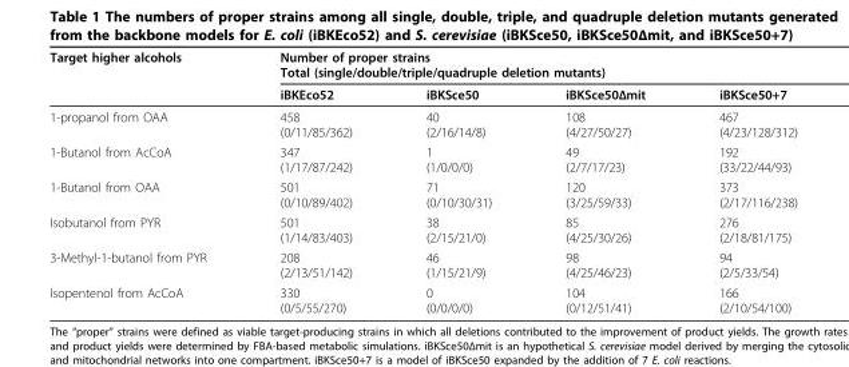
<table><thead><tr><td rowspan="2">Target higher alcohols</td><td colspan="4">Number of proper strains Total (single/double/triple/quadruple deletion mutants)</td></tr><tr><td>iBKEco52</td><td>iBKSce50</td><td>iBKSce50Δmit</td><td>iBKSce50+7</td></tr></thead><tbody><tr><td>1-propanol from OAA</td><td>458 (0/11/85/362)</td><td>40 (2/16/14/8)</td><td>108 (4/27/50/27)</td><td>467 (4/23/128/312)</td></tr><tr><td>1-Butanol from AcCoA</td><td>347 (1/17/87/242)</td><td>1 (1/0/0/0)</td><td>49 (2/7/17/23)</td><td>192 (33/22/44/93)</td></tr><tr><td>1-Butanol from OAA</td><td>501 (0/10/89/402)</td><td>71 (0/10/30/31)</td><td>120 (3/25/59/33)</td><td>373 (2/17/116/238)</td></tr><tr><td>Isobutanol from PYR</td><td>501 (1/14/83/403)</td><td>38 (2/15/21/0)</td><td>85 (4/25/30/26)</td><td>276 (2/18/81/175)</td></tr><tr><td>3-Methyl-1-butanol from PYR</td><td>208 (2/13/51/142)</td><td>46 (1/15/21/9)</td><td>98 (4/25/46/23)</td><td>94 (2/5/33/54)</td></tr><tr><td>Isopentenol from AcCoA</td><td>330 (0/5/55/270)</td><td>0 (0/0/0/0)</td><td>104 (0/12/51/41)</td><td>166 (2/10/54/100)</td></tr></tbody></table>